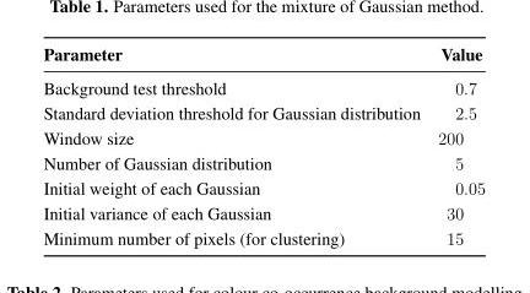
<table><thead><tr><td>Parameter</td><td>Value</td></tr></thead><tbody><tr><td>Background test threshold</td><td>0.7</td></tr><tr><td>Standard deviation threshold for Gaussian distribution</td><td>2.5</td></tr><tr><td>Window size</td><td>200</td></tr><tr><td>Number of Gaussian distribution</td><td>5</td></tr><tr><td>Initial weight of each Gaussian</td><td>0.05</td></tr><tr><td>Initial variance of each Gaussian</td><td>30</td></tr><tr><td>Minimum number of pixels (for clustering)</td><td>15</td></tr></tbody></table>